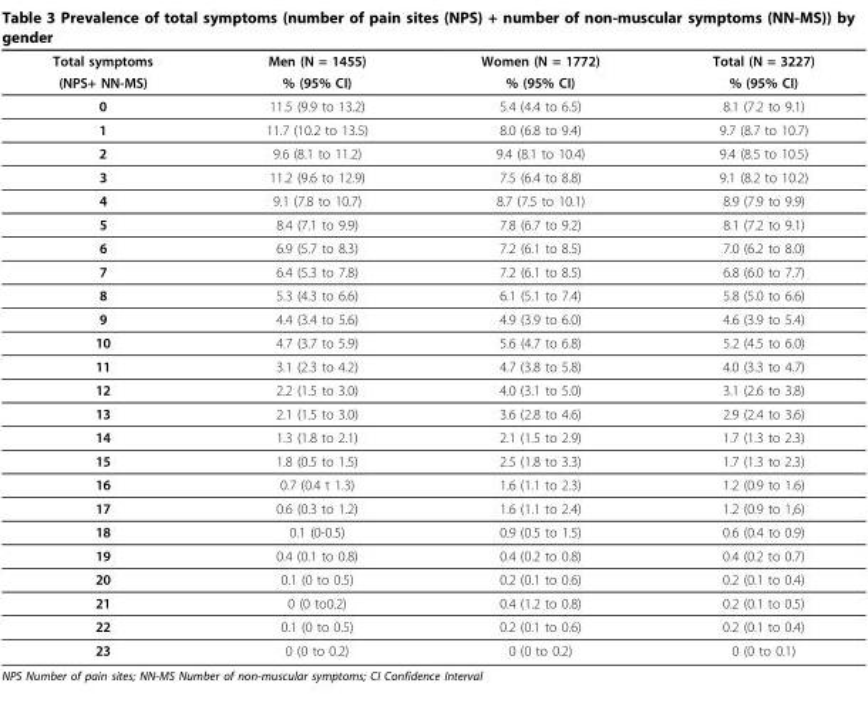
<table><thead><tr><td rowspan="2">Total symptoms (NPS+ NN-MS)</td><td rowspan="2">Men (N = 1455) % (95% CI)</td><td rowspan="2">Women (N = 1772) % (95% CI)</td><td rowspan="2">Total (N = 3227) % (95% CI)</td></tr><tr></tr></thead><tbody><tr><td>0</td><td>11.5 (9.9 to 13.2)</td><td>5.4 (4.4 to 6.5)</td><td>8.1 (7.2 to 9.1)</td></tr><tr><td>1</td><td>11.7 (10.2 to 13.5)</td><td>8.0 (6.8 to 9.4)</td><td>9.7 (8.7 to 10.7)</td></tr><tr><td>2</td><td>9.6 (8.1 to 11.2)</td><td>9.4 (8.1 to 10.4)</td><td>9.4 (8.5 to 10.5)</td></tr><tr><td>3</td><td>11.2 (9.6 to 12.9)</td><td>7.5 (6.4 to 8.8)</td><td>9.1 (8.2 to 10.2)</td></tr><tr><td>4</td><td>9.1 (7.8 to 10.7)</td><td>8.7 (7.5 to 10.1)</td><td>8.9 (7.9 to 9.9)</td></tr><tr><td>5</td><td>8.4 (7.1 to 9.9)</td><td>7.8 (6.7 to 9.2)</td><td>8.1 (7.2 to 9.1)</td></tr><tr><td>6</td><td>6.9 (5.7 to 8.3)</td><td>7.2 (6.1 to 8.5)</td><td>7.0 (6.2 to 8.0)</td></tr><tr><td>7</td><td>6.4 (5.3 to 7.8)</td><td>7.2 (6.1 to 8.5)</td><td>6.8 (6.0 to 7.7)</td></tr><tr><td>8</td><td>5.3 (4.3 to 6.6)</td><td>6.1 (5.1 to 7.4)</td><td>5.8 (5.0 to 6.6)</td></tr><tr><td>9</td><td>4.4 (3.4 to 5.6)</td><td>4.9 (3.9 to 6.0)</td><td>4.6 (3.9 to 5.4)</td></tr><tr><td>10</td><td>4.7 (3.7 to 5.9)</td><td>5.6 (4.7 to 6.8)</td><td>5.2 (4.5 to 6.0)</td></tr><tr><td>11</td><td>3.1 (2.3 to 4.2)</td><td>4.7 (3.8 to 5.8)</td><td>4.0 (3.3 to 4.7)</td></tr><tr><td>12</td><td>2.2 (1.5 to 3.0)</td><td>4.0 (3.1 to 5.0)</td><td>3.1 (2.6 to 3.8)</td></tr><tr><td>13</td><td>2.1 (1.5 to 3.0)</td><td>3.6 (2.8 to 4.6)</td><td>2.9 (2.4 to 3.6)</td></tr><tr><td>14</td><td>1.3 (1.8 to 2.1)</td><td>2.1 (1.5 to 2.9)</td><td>1.7 (1.3 to 2.3)</td></tr><tr><td>15</td><td>1.8 (0.5 to 1.5)</td><td>2.5 (1.8 to 3.3)</td><td>1.7 (1.3 to 2.3)</td></tr><tr><td>16</td><td>0.7 (0.4 t 1.3)</td><td>1.6 (1.1 to 2.3)</td><td>1.2 (0.9 to 1.6)</td></tr><tr><td>17</td><td>0.6 (0.3 to 1.2)</td><td>1.6 (1.1 to 2.4)</td><td>1.2 (0.9 to 1,6)</td></tr><tr><td>18</td><td>0.1 (0-0.5)</td><td>0.9 (0.5 to 1.5)</td><td>0.6 (0.4 to 0.9)</td></tr><tr><td>19</td><td>0.4 (0.1 to 0.8)</td><td>0.4 (0.2 to 0.8)</td><td>0.4 (0.2 to 0.7)</td></tr><tr><td>20</td><td>0.1 (0 to 0.5)</td><td>0.2 (0.1 to 0.6)</td><td>0.2 (0.1 to 0.4)</td></tr><tr><td>21</td><td>0 (0 to0.2)</td><td>0.4 (1.2 to 0.8)</td><td>0.2 (0.1 to 0.5)</td></tr><tr><td>22</td><td>0.1 (0 to 0.5)</td><td>0.2 (0.1 to 0.6)</td><td>0.2 (0.1 to 0.4)</td></tr><tr><td>23</td><td>0 (0 to 0.2)</td><td>0 (0 to 0.2)</td><td>0 (0 to 0.1)</td></tr></tbody></table>